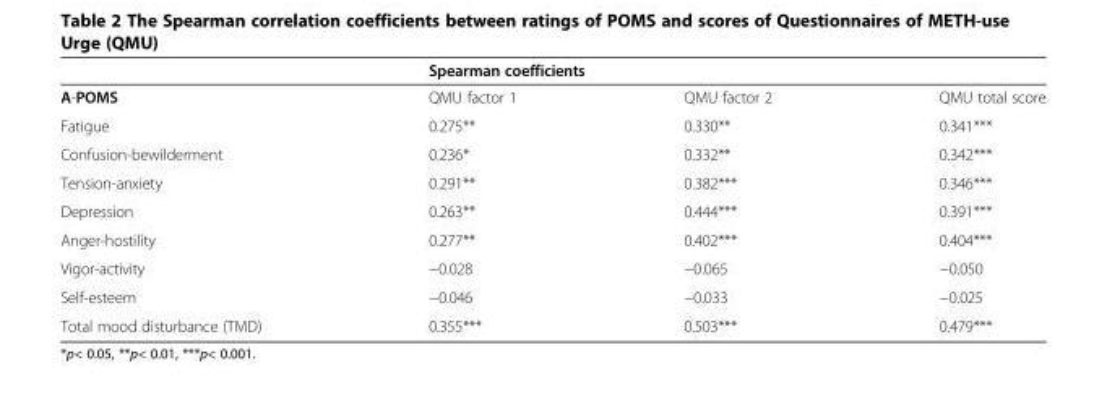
<table><thead><tr><td rowspan="2">A-POMS</td><td colspan="3">Spearman coefficients</td></tr><tr><td>QMU factor 1</td><td>QMU factor 2</td><td>QMU total score</td></tr></thead><tbody><tr><td>Fatigue</td><td>0.275**</td><td>0.330**</td><td>0.341***</td></tr><tr><td>Confusion-bewilderment</td><td>0.236*</td><td>0.332**</td><td>0.342***</td></tr><tr><td>Tension-anxiety</td><td>0.291**</td><td>0.382***</td><td>0.346***</td></tr><tr><td>Depression</td><td>0.263**</td><td>0.444***</td><td>0.391***</td></tr><tr><td>Anger-hostility</td><td>0.277**</td><td>0.402***</td><td>0.404***</td></tr><tr><td>Vigor-activity</td><td>−0.028</td><td>−0.065</td><td>−0.050</td></tr><tr><td>Self-esteem</td><td>−0.046</td><td>−0.033</td><td>−0.025</td></tr><tr><td>Total mood disturbance (TMD)</td><td>0.355***</td><td>0.503***</td><td>0.479***</td></tr></tbody></table>